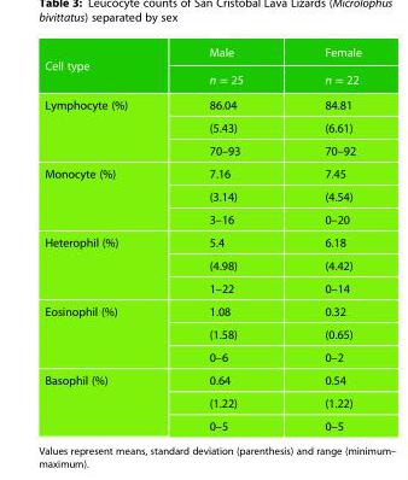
<table><thead><tr><td rowspan="2">Cell type</td><td rowspan="2">Male n = 25</td><td rowspan="2">Female n = 22</td></tr><tr></tr></thead><tbody><tr><td rowspan="3">Lymphocyte (%)</td><td>86.04</td><td>84.81</td></tr><tr><td>(5.43)</td><td>(6.61)</td></tr><tr><td>70–93</td><td>70–92</td></tr><tr><td rowspan="3">Monocyte (%)</td><td>7.16</td><td>7.45</td></tr><tr><td>(3.14)</td><td>(4.54)</td></tr><tr><td>3–16</td><td>0–20</td></tr><tr><td rowspan="3">Heterophil (%)</td><td>5.4</td><td>6.18</td></tr><tr><td>(4.98)</td><td>(4.42)</td></tr><tr><td>1–22</td><td>0–14</td></tr><tr><td rowspan="3">Eosinophil (%)</td><td>1.08</td><td>0.32</td></tr><tr><td>(1.58)</td><td>(0.65)</td></tr><tr><td>0–6</td><td>0–2</td></tr><tr><td rowspan="3">Basophil (%)</td><td>0.64</td><td>0.54</td></tr><tr><td>(1.22)</td><td>(1.22)</td></tr><tr><td>0–5</td><td>0–5</td></tr></tbody></table>